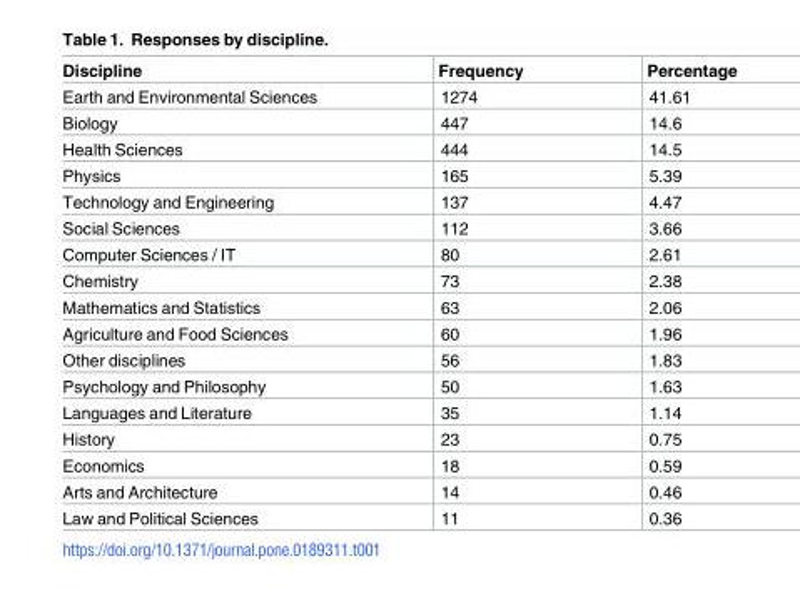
<table><thead><tr><td>Discipline</td><td>Frequency</td><td>Percentage</td></tr></thead><tbody><tr><td>Earth and Environmental Sciences</td><td>1274</td><td>41.61</td></tr><tr><td>Biology</td><td>447</td><td>14.6</td></tr><tr><td>Health Sciences</td><td>444</td><td>14.5</td></tr><tr><td>Physics</td><td>165</td><td>5.39</td></tr><tr><td>Technology and Engineering</td><td>137</td><td>4.47</td></tr><tr><td>Social Sciences</td><td>112</td><td>3.66</td></tr><tr><td>Computer Sciences / IT</td><td>80</td><td>2.61</td></tr><tr><td>Chemistry</td><td>73</td><td>2.38</td></tr><tr><td>Mathematics and Statistics</td><td>63</td><td>2.06</td></tr><tr><td>Agriculture and Food Sciences</td><td>60</td><td>1.96</td></tr><tr><td>Other disciplines</td><td>56</td><td>1.83</td></tr><tr><td>Psychology and Philosophy</td><td>50</td><td>1.63</td></tr><tr><td>Languages and Literature</td><td>35</td><td>1.14</td></tr><tr><td>History</td><td>23</td><td>0.75</td></tr><tr><td>Economics</td><td>18</td><td>0.59</td></tr><tr><td>Arts and Architecture</td><td>14</td><td>0.46</td></tr><tr><td>Law and Political Sciences</td><td>11</td><td>0.36</td></tr></tbody></table>